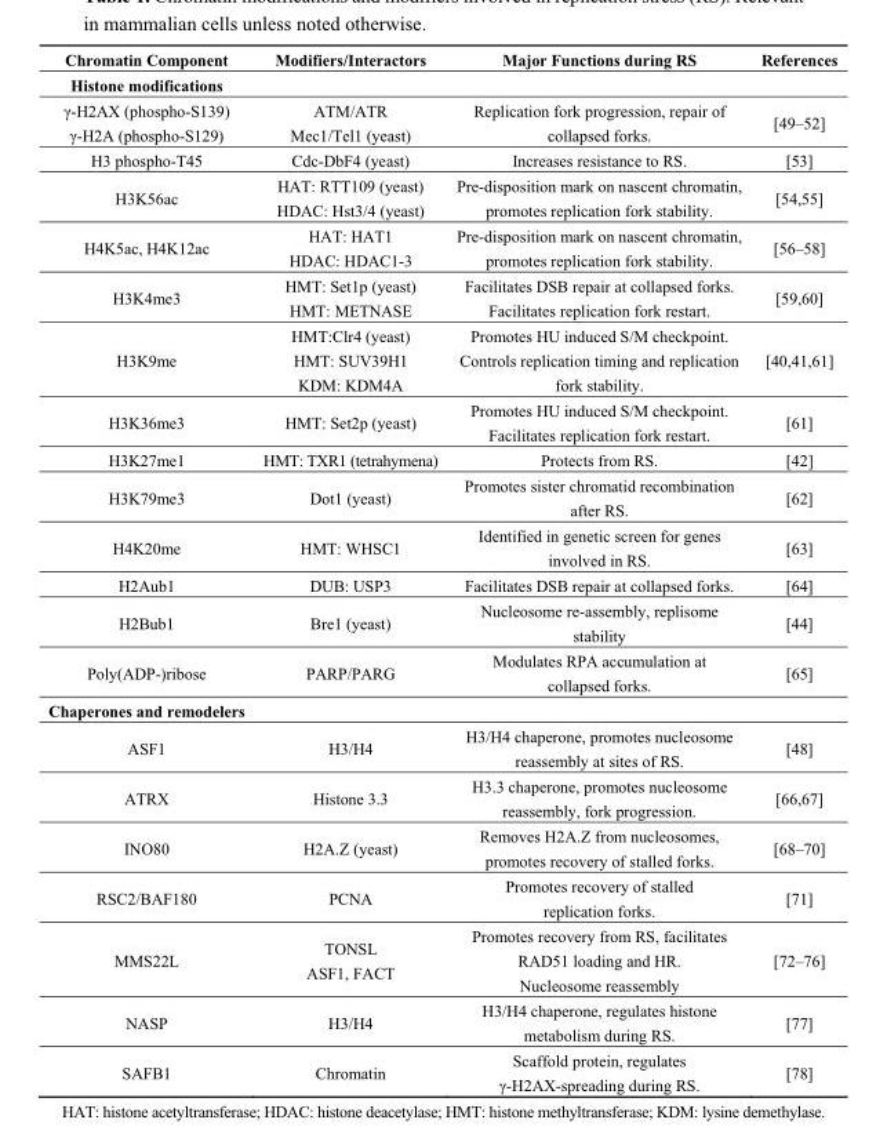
<table><thead><tr><td>Chromatin Component</td><td>Modifiers/Interactors</td><td>Major Functions during RS</td><td>References</td></tr></thead><tbody><tr><td colspan="4">Histone modifications</td></tr><tr><td>γ-H2AX (phospho-S139) γ-H2A (phospho-S129)</td><td>ATM/ATR Mec1/Tel1 (yeast)</td><td>Replication fork progression, repair of collapsed forks.</td><td>[49–52]</td></tr><tr><td>H3 phospho-T45</td><td>Cdc-DbF4 (yeast)</td><td>Increases resistance to RS.</td><td>[53]</td></tr><tr><td>H3K56ac</td><td>HAT: RTT109 (yeast) HDAC: Hst3/4 (yeast)</td><td>Pre-disposition mark on nascent chromatin, promotes replication fork stability.</td><td>[54,55]</td></tr><tr><td>H4K5ac, H4K12ac</td><td>HAT: HAT1 HDAC: HDAC1-3</td><td>Pre-disposition mark on nascent chromatin, promotes replication fork stability.</td><td>[56–58]</td></tr><tr><td>H3K4me3</td><td>HMT: Set1p (yeast) HMT: METNASE</td><td>Facilitates DSB repair at collapsed forks. Facilitates replication fork restart.</td><td>[59,60]</td></tr><tr><td>H3K9me</td><td>HMT:Clr4 (yeast) HMT: SUV39H1 KDM: KDM4A</td><td>Promotes HU induced S/M checkpoint. Controls replication timing and replication fork stability.</td><td>[40,41,61]</td></tr><tr><td>H3K36me3</td><td>HMT: Set2p (yeast)</td><td>Promotes HU induced S/M checkpoint. Facilitates replication fork restart.</td><td>[61]</td></tr><tr><td>H3K27me1</td><td>HMT: TXR1 (tetrahymena)</td><td>Protects from RS.</td><td>[42]</td></tr><tr><td>H3K79me3</td><td>Dot1 (yeast)</td><td>Promotes sister chromatid recombination after RS.</td><td>[62]</td></tr><tr><td>H4K20me</td><td>HMT: WHSC1</td><td>Identified in genetic screen for genes involved in RS.</td><td>[63]</td></tr><tr><td>H2Aub1</td><td>DUB: USP3</td><td>Facilitates DSB repair at collapsed forks.</td><td>[64]</td></tr><tr><td>H2Bub1</td><td>Bre1 (yeast)</td><td>Nucleosome re-assembly, replisome stability</td><td>[44]</td></tr><tr><td>Poly(ADP-)ribose</td><td>PARP/PARG</td><td>Modulates RPA accumulation at collapsed forks.</td><td>[65]</td></tr><tr><td colspan="4">Chaperones and remodelers</td></tr><tr><td>ASF1</td><td>H3/H4</td><td>H3/H4 chaperone, promotes nucleosome reassembly at sites of RS.</td><td>[48]</td></tr><tr><td>ATRX</td><td>Histone 3.3</td><td>H3.3 chaperone, promotes nucleosome reassembly, fork progression.</td><td>[66,67]</td></tr><tr><td>INO80</td><td>H2A.Z (yeast)</td><td>Removes H2A.Z from nucleosomes, promotes recovery of stalled forks.</td><td>[68–70]</td></tr><tr><td>RSC2/BAF180</td><td>PCNA</td><td>Promotes recovery of stalled replication forks.</td><td>[71]</td></tr><tr><td>MMS22L</td><td>TONSL ASF1, FACT</td><td>Promotes recovery from RS, facilitates RAD51 loading and HR. Nucleosome reassembly</td><td>[72–76]</td></tr><tr><td>NASP</td><td>H3/H4</td><td>H3/H4 chaperone, regulates histone metabolism during RS.</td><td>[77]</td></tr><tr><td>SAFB1</td><td>Chromatin</td><td>Scaffold protein, regulates γ-H2AX-spreading during RS.</td><td>[78]</td></tr></tbody></table>